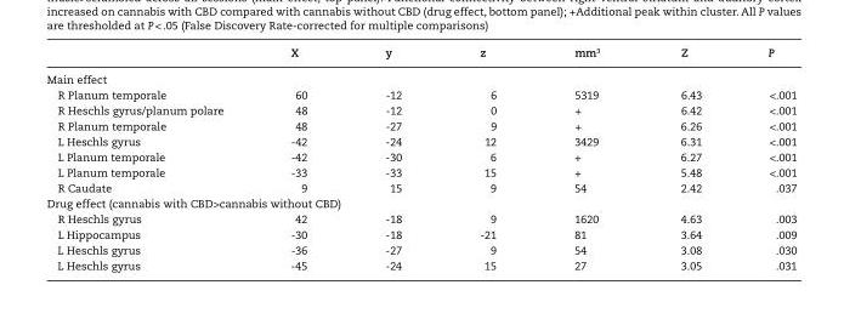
<table><thead><tr><td></td><td>X</td><td>y</td><td>z</td><td>mm<sup>3</sup></td><td>Z</td><td>P</td></tr></thead><tbody><tr><td colspan="7">Main effect</td></tr><tr><td>R Planum temporale</td><td>60</td><td>-12</td><td>6</td><td>5319</td><td>6.43</td><td>&lt;.001</td></tr><tr><td>R Heschls gyrus/planum polare</td><td>48</td><td>-12</td><td>0</td><td>+</td><td>6.42</td><td>&lt;.001</td></tr><tr><td>R Planum temporale</td><td>48</td><td>-27</td><td>9</td><td>+</td><td>6.26</td><td>&lt;.001</td></tr><tr><td>L Heschls gyrus</td><td>-42</td><td>-24</td><td>12</td><td>3429</td><td>6.31</td><td>&lt;.001</td></tr><tr><td>L Planum temporale</td><td>-42</td><td>-30</td><td>6</td><td>+</td><td>6.27</td><td>&lt;.001</td></tr><tr><td>L Planum temporale</td><td>-33</td><td>-33</td><td>15</td><td>+</td><td>5.48</td><td>&lt;.001</td></tr><tr><td>R Caudate</td><td>9</td><td>15</td><td>9</td><td>54</td><td>2.42</td><td>.037</td></tr><tr><td colspan="7">Drug effect (cannabis with CBD&gt;cannabis without CBD)</td></tr><tr><td>R Heschls gyrus</td><td>42</td><td>-18</td><td>9</td><td>1620</td><td>4.63</td><td>.003</td></tr><tr><td>L Hippocampus</td><td>-30</td><td>-18</td><td>-21</td><td>81</td><td>3.64</td><td>.009</td></tr><tr><td>L Heschls gyrus</td><td>-36</td><td>-27</td><td>9</td><td>54</td><td>3.08</td><td>.030</td></tr><tr><td>L Heschls gyrus</td><td>-45</td><td>-24</td><td>15</td><td>27</td><td>3.05</td><td>.031</td></tr></tbody></table>